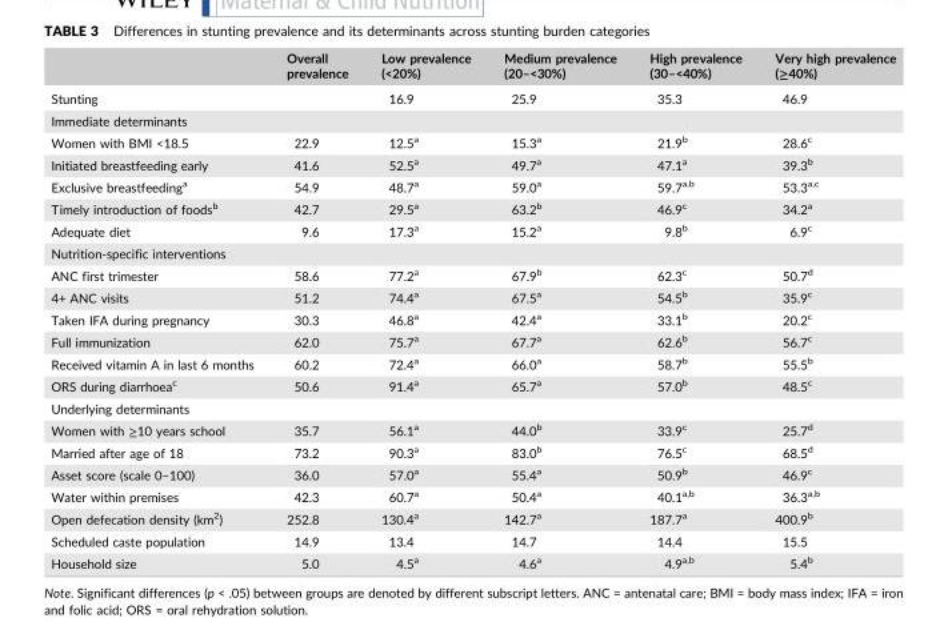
<table><thead><tr><td></td><td>Overall prevalence</td><td>Low prevalence (&lt;20%)</td><td>Medium prevalence (20–&lt;30%)</td><td>High prevalence (30–&lt;40%)</td><td>Very high prevalence (≥40%)</td></tr></thead><tbody><tr><td>Stunting</td><td></td><td>16.9</td><td>25.9</td><td>35.3</td><td>46.9</td></tr><tr><td colspan="6">Immediate determinants</td></tr><tr><td>Women with BMI &lt;18.5</td><td>22.9</td><td>12.5<sup>a</sup></td><td>15.3<sup>a</sup></td><td>21.9<sup>b</sup></td><td>28.6<sup>c</sup></td></tr><tr><td>Initiated breastfeeding early</td><td>41.6</td><td>52.5<sup>a</sup></td><td>49.7<sup>a</sup></td><td>47.1<sup>a</sup></td><td>39.3<sup>b</sup></td></tr><tr><td>Exclusive breastfeeding<sup>a</sup></td><td>54.9</td><td>48.7<sup>a</sup></td><td>59.0<sup>a</sup></td><td>59.7<sup>a,</sup>b</td><td>53.3<sup>a,</sup>c</td></tr><tr><td>Timely introduction of foods<sup>b</sup></td><td>42.7</td><td>29.5<sup>a</sup></td><td>63.2<sup>b</sup></td><td>46.9<sup>c</sup></td><td>34.2<sup>a</sup></td></tr><tr><td>Adequate diet</td><td>9.6</td><td>17.3<sup>a</sup></td><td>15.2<sup>a</sup></td><td>9.8<sup>b</sup></td><td>6.9<sup>c</sup></td></tr><tr><td colspan="6">Nutrition‐specific interventions</td></tr><tr><td>ANC first trimester</td><td>58.6</td><td>77.2<sup>a</sup></td><td>67.9<sup>b</sup></td><td>62.3<sup>c</sup></td><td>50.7<sup>d</sup></td></tr><tr><td>4+ ANC visits</td><td>51.2</td><td>74.4<sup>a</sup></td><td>67.5<sup>a</sup></td><td>54.5<sup>b</sup></td><td>35.9<sup>c</sup></td></tr><tr><td>Taken IFA during pregnancy</td><td>30.3</td><td>46.8<sup>a</sup></td><td>42.4<sup>a</sup></td><td>33.1<sup>b</sup></td><td>20.2<sup>c</sup></td></tr><tr><td>Full immunization</td><td>62.0</td><td>75.7<sup>a</sup></td><td>67.7<sup>a</sup></td><td>62.6<sup>b</sup></td><td>56.7<sup>c</sup></td></tr><tr><td>Received vitamin A in last 6 months</td><td>60.2</td><td>72.4<sup>a</sup></td><td>66.0<sup>a</sup></td><td>58.7<sup>b</sup></td><td>55.5<sup>b</sup></td></tr><tr><td>ORS during diarrhoea<sup>c</sup></td><td>50.6</td><td>91.4<sup>a</sup></td><td>65.7<sup>a</sup></td><td>57.0<sup>b</sup></td><td>48.5<sup>c</sup></td></tr><tr><td colspan="6">Underlying determinants</td></tr><tr><td>Women with ≥10 years school</td><td>35.7</td><td>56.1<sup>a</sup></td><td>44.0<sup>b</sup></td><td>33.9<sup>c</sup></td><td>25.7<sup>d</sup></td></tr><tr><td>Married after age of 18</td><td>73.2</td><td>90.3<sup>a</sup></td><td>83.0<sup>b</sup></td><td>76.5<sup>c</sup></td><td>68.5<sup>d</sup></td></tr><tr><td>Asset score (scale 0–100)</td><td>36.0</td><td>57.0<sup>a</sup></td><td>55.4<sup>a</sup></td><td>50.9<sup>b</sup></td><td>46.9<sup>c</sup></td></tr><tr><td>Water within premises</td><td>42.3</td><td>60.7<sup>a</sup></td><td>50.4<sup>a</sup></td><td>40.1<sup>a,</sup>b</td><td>36.3<sup>a,</sup>b</td></tr><tr><td>Open defecation density (km<sup>2</sup>)</td><td>252.8</td><td>130.4<sup>a</sup></td><td>142.7<sup>a</sup></td><td>187.7<sup>a</sup></td><td>400.9<sup>b</sup></td></tr><tr><td>Scheduled caste population</td><td>14.9</td><td>13.4</td><td>14.7</td><td>14.4</td><td>15.5</td></tr><tr><td>Household size</td><td>5.0</td><td>4.5<sup>a</sup></td><td>4.6<sup>a</sup></td><td>4.9<sup>a,</sup>b</td><td>5.4<sup>b</sup></td></tr></tbody></table>